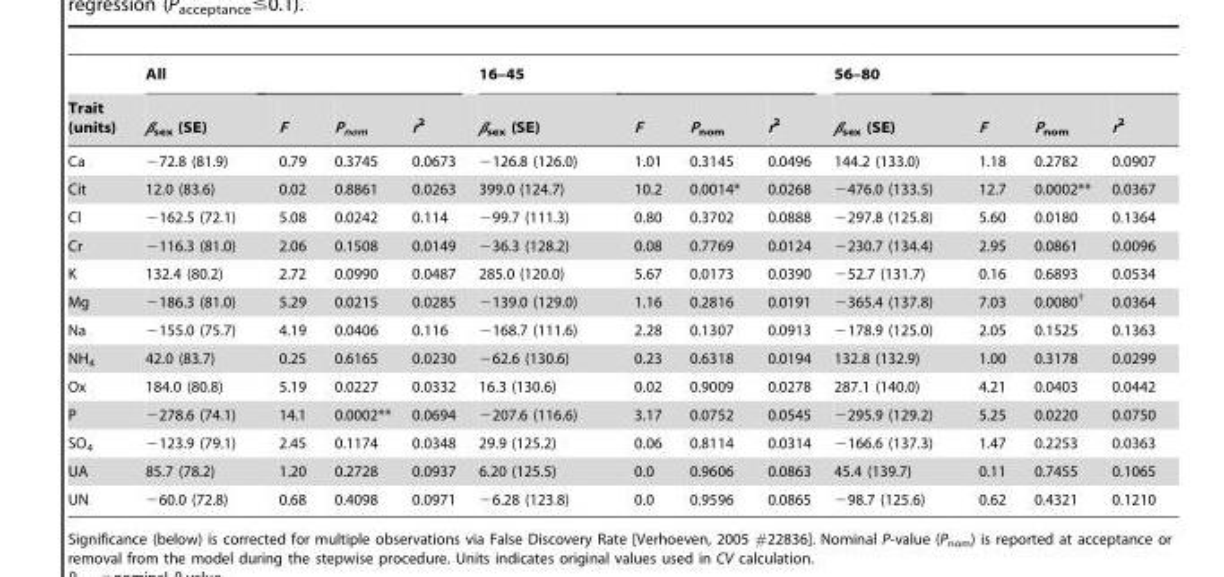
<table><thead><tr><td rowspan="2">Trait (units)</td><td rowspan="2">All β<sub>sex</sub> (SE)</td><td rowspan="2">F</td><td rowspan="2">P<sub>nom</sub></td><td rowspan="2">r<sup>2</sup></td><td rowspan="2">16–45 β<sub>sex</sub> (SE)</td><td rowspan="2">F</td><td rowspan="2">P<sub>nom</sub></td><td rowspan="2">r<sup>2</sup></td><td rowspan="2">56–80 β<sub>sex</sub> (SE)</td><td rowspan="2">F</td><td rowspan="2">P<sub>nom</sub></td><td rowspan="2">r<sup>2</sup></td></tr><tr></tr></thead><tbody><tr><td>Ca</td><td>−72.8 (81.9)</td><td>0.79</td><td>0.3745</td><td>0.0673</td><td>−126.8 (126.0)</td><td>1.01</td><td>0.3145</td><td>0.0496</td><td>144.2 (133.0)</td><td>1.18</td><td>0.2782</td><td>0.0907</td></tr><tr><td>Cit</td><td>12.0 (83.6)</td><td>0.02</td><td>0.8861</td><td>0.0263</td><td>399.0 (124.7)</td><td>10.2</td><td>0.0014*</td><td>0.0268</td><td>−476.0 (133.5)</td><td>12.7</td><td>0.0002**</td><td>0.0367</td></tr><tr><td>Cl</td><td>−162.5 (72.1)</td><td>5.08</td><td>0.0242</td><td>0.114</td><td>−99.7 (111.3)</td><td>0.80</td><td>0.3702</td><td>0.0888</td><td>−297.8 (125.8)</td><td>5.60</td><td>0.0180</td><td>0.1364</td></tr><tr><td>Cr</td><td>−116.3 (81.0)</td><td>2.06</td><td>0.1508</td><td>0.0149</td><td>−36.3 (128.2)</td><td>0.08</td><td>0.7769</td><td>0.0124</td><td>−230.7 (134.4)</td><td>2.95</td><td>0.0861</td><td>0.0096</td></tr><tr><td>K</td><td>132.4 (80.2)</td><td>2.72</td><td>0.0990</td><td>0.0487</td><td>285.0 (120.0)</td><td>5.67</td><td>0.0173</td><td>0.0390</td><td>−52.7 (131.7)</td><td>0.16</td><td>0.6893</td><td>0.0534</td></tr><tr><td>Mg</td><td>−186.3 (81.0)</td><td>5.29</td><td>0.0215</td><td>0.0285</td><td>−139.0 (129.0)</td><td>1.16</td><td>0.2816</td><td>0.0191</td><td>−365.4 (137.8)</td><td>7.03</td><td>0.0080<sup>†</sup></td><td>0.0364</td></tr><tr><td>Na</td><td>−155.0 (75.7)</td><td>4.19</td><td>0.0406</td><td>0.116</td><td>−168.7 (111.6)</td><td>2.28</td><td>0.1307</td><td>0.0913</td><td>−178.9 (125.0)</td><td>2.05</td><td>0.1525</td><td>0.1363</td></tr><tr><td>NH<sub>4</sub></td><td>42.0 (83.7)</td><td>0.25</td><td>0.6165</td><td>0.0230</td><td>−62.6 (130.6)</td><td>0.23</td><td>0.6318</td><td>0.0194</td><td>132.8 (132.9)</td><td>1.00</td><td>0.3178</td><td>0.0299</td></tr><tr><td>Ox</td><td>184.0 (80.8)</td><td>5.19</td><td>0.0227</td><td>0.0332</td><td>16.3 (130.6)</td><td>0.02</td><td>0.9009</td><td>0.0278</td><td>287.1 (140.0)</td><td>4.21</td><td>0.0403</td><td>0.0442</td></tr><tr><td>P</td><td>−278.6 (74.1)</td><td>14.1</td><td>0.0002**</td><td>0.0694</td><td>−207.6 (116.6)</td><td>3.17</td><td>0.0752</td><td>0.0545</td><td>−295.9 (129.2)</td><td>5.25</td><td>0.0220</td><td>0.0750</td></tr><tr><td>SO<sub>4</sub></td><td>−123.9 (79.1)</td><td>2.45</td><td>0.1174</td><td>0.0348</td><td>29.9 (125.2)</td><td>0.06</td><td>0.8114</td><td>0.0314</td><td>−166.6 (137.3)</td><td>1.47</td><td>0.2253</td><td>0.0363</td></tr><tr><td>UA</td><td>85.7 (78.2)</td><td>1.20</td><td>0.2728</td><td>0.0937</td><td>6.20 (125.5)</td><td>0.0</td><td>0.9606</td><td>0.0863</td><td>45.4 (139.7)</td><td>0.11</td><td>0.7455</td><td>0.1065</td></tr><tr><td>UN</td><td>−60.0 (72.8)</td><td>0.68</td><td>0.4098</td><td>0.0971</td><td>−6.28 (123.8)</td><td>0.0</td><td>0.9596</td><td>0.0865</td><td>−98.7 (125.6)</td><td>0.62</td><td>0.4321</td><td>0.1210</td></tr></tbody></table>